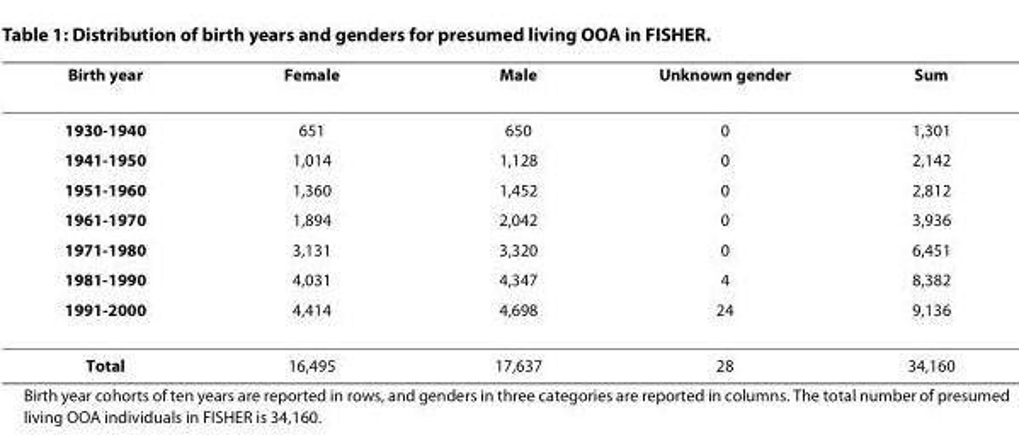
<table><thead><tr><td>Birth year</td><td>Female</td><td>Male</td><td>Unknown gender</td><td>Sum</td></tr></thead><tbody><tr><td>1930-1940</td><td>651</td><td>650</td><td>0</td><td>1,301</td></tr><tr><td>1941-1950</td><td>1,014</td><td>1,128</td><td>0</td><td>2,142</td></tr><tr><td>1951-1960</td><td>1,360</td><td>1,452</td><td>0</td><td>2,812</td></tr><tr><td>1961-1970</td><td>1,894</td><td>2,042</td><td>0</td><td>3,936</td></tr><tr><td>1971-1980</td><td>3,131</td><td>3,320</td><td>0</td><td>6,451</td></tr><tr><td>1981-1990</td><td>4,031</td><td>4,347</td><td>4</td><td>8,382</td></tr><tr><td>1991-2000</td><td>4,414</td><td>4,698</td><td>24</td><td>9,136</td></tr><tr><td>Total</td><td>16,495</td><td>17,637</td><td>28</td><td>34,160</td></tr></tbody></table>